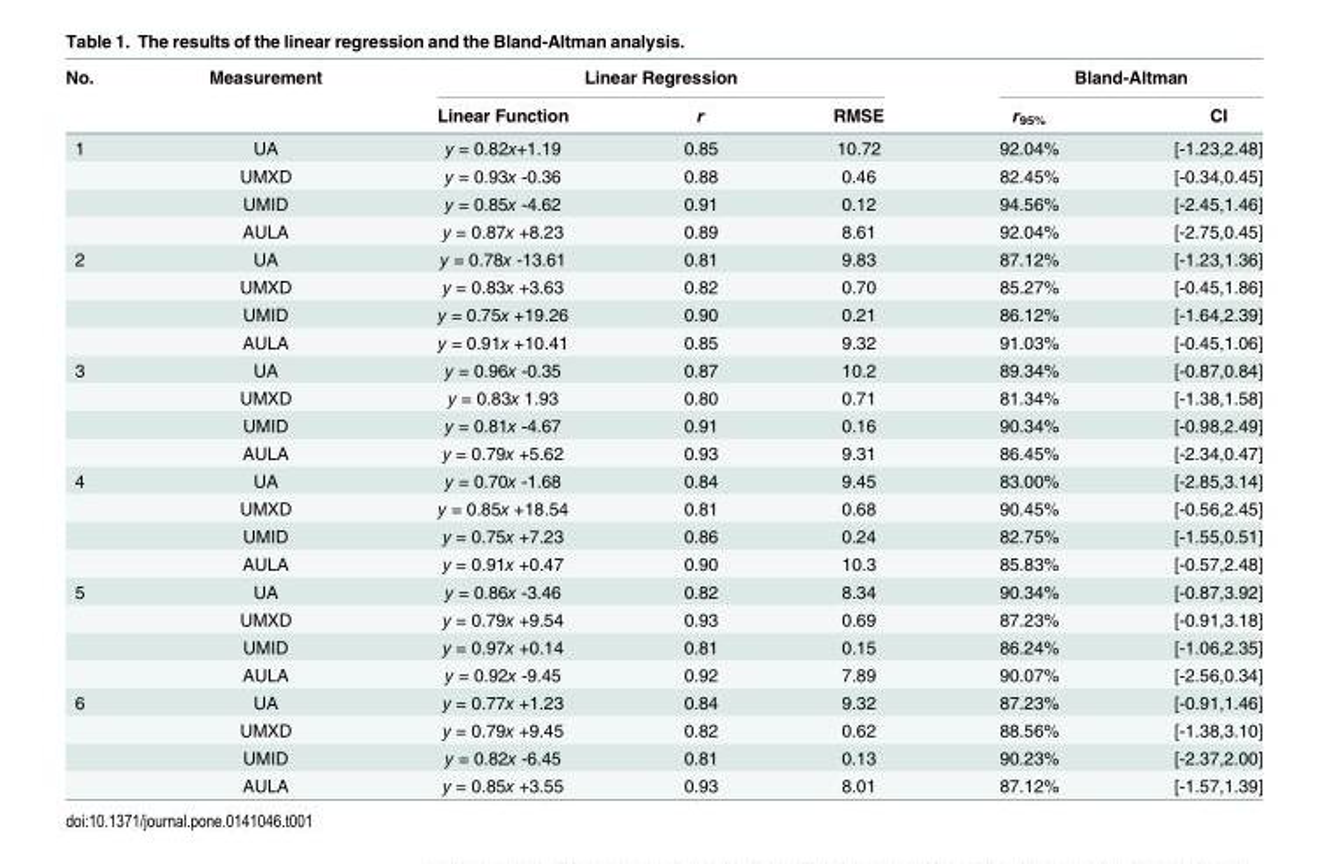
<table><thead><tr><td rowspan="2">No.</td><td rowspan="2">Measurement</td><td colspan="3">Linear Regression</td><td colspan="2">Bland-Altman</td></tr><tr><td>Linear Function</td><td>r</td><td>RMSE</td><td>r<sub>95%</sub></td><td>CI</td></tr></thead><tbody><tr><td rowspan="4">1</td><td>UA</td><td>y = 0.82x+1.19</td><td>0.85</td><td>10.72</td><td>92.04%</td><td>[-1.23,2.48]</td></tr><tr><td>UMXD</td><td>y = 0.93x -0.36</td><td>0.88</td><td>0.46</td><td>82.45%</td><td>[-0.34,0.45]</td></tr><tr><td>UMID</td><td>y = 0.85x -4.62</td><td>0.91</td><td>0.12</td><td>94.56%</td><td>[-2.45,1.46]</td></tr><tr><td>AULA</td><td>y = 0.87x +8.23</td><td>0.89</td><td>8.61</td><td>92.04%</td><td>[-2.75,0.45]</td></tr><tr><td rowspan="4">2</td><td>UA</td><td>y = 0.78x -13.61</td><td>0.81</td><td>9.83</td><td>87.12%</td><td>[-1.23,1.36]</td></tr><tr><td>UMXD</td><td>y = 0.83x +3.63</td><td>0.82</td><td>0.70</td><td>85.27%</td><td>[-0.45,1.86]</td></tr><tr><td>UMID</td><td>y = 0.75x +19.26</td><td>0.90</td><td>0.21</td><td>86.12%</td><td>[-1.64,2.39]</td></tr><tr><td>AULA</td><td>y = 0.91x +10.41</td><td>0.85</td><td>9.32</td><td>91.03%</td><td>[-0.45,1.06]</td></tr><tr><td rowspan="4">3</td><td>UA</td><td>y = 0.96x -0.35</td><td>0.87</td><td>10.2</td><td>89.34%</td><td>[-0.87,0.84]</td></tr><tr><td>UMXD</td><td>y = 0.83x 1.93</td><td>0.80</td><td>0.71</td><td>81.34%</td><td>[-1.38,1.58]</td></tr><tr><td>UMID</td><td>y = 0.81x -4.67</td><td>0.91</td><td>0.16</td><td>90.34%</td><td>[-0.98,2.49]</td></tr><tr><td>AULA</td><td>y = 0.79x +5.62</td><td>0.93</td><td>9.31</td><td>86.45%</td><td>[-2.34,0.47]</td></tr><tr><td rowspan="4">4</td><td>UA</td><td>y = 0.70x -1.68</td><td>0.84</td><td>9.45</td><td>83.00%</td><td>[-2.85,3.14]</td></tr><tr><td>UMXD</td><td>y = 0.85x +18.54</td><td>0.81</td><td>0.68</td><td>90.45%</td><td>[-0.56,2.45]</td></tr><tr><td>UMID</td><td>y = 0.75x +7.23</td><td>0.86</td><td>0.24</td><td>82.75%</td><td>[-1.55,0.51]</td></tr><tr><td>AULA</td><td>y = 0.91x +0.47</td><td>0.90</td><td>10.3</td><td>85.83%</td><td>[-0.57,2.48]</td></tr><tr><td rowspan="4">5</td><td>UA</td><td>y = 0.86x -3.46</td><td>0.82</td><td>8.34</td><td>90.34%</td><td>[-0.87,3.92]</td></tr><tr><td>UMXD</td><td>y = 0.79x +9.54</td><td>0.93</td><td>0.69</td><td>87.23%</td><td>[-0.91,3.18]</td></tr><tr><td>UMID</td><td>y = 0.97x +0.14</td><td>0.81</td><td>0.15</td><td>86.24%</td><td>[-1.06,2.35]</td></tr><tr><td>AULA</td><td>y = 0.92x -9.45</td><td>0.92</td><td>7.89</td><td>90.07%</td><td>[-2.56,0.34]</td></tr><tr><td rowspan="4">6</td><td>UA</td><td>y = 0.77x +1.23</td><td>0.84</td><td>9.32</td><td>87.23%</td><td>[-0.91,1.46]</td></tr><tr><td>UMXD</td><td>y = 0.79x +9.45</td><td>0.82</td><td>0.62</td><td>88.56%</td><td>[-1.38,3.10]</td></tr><tr><td>UMID</td><td>y = 0.82x -6.45</td><td>0.81</td><td>0.13</td><td>90.23%</td><td>[-2.37,2.00]</td></tr><tr><td>AULA</td><td>y = 0.85x +3.55</td><td>0.93</td><td>8.01</td><td>87.12%</td><td>[-1.57,1.39]</td></tr></tbody></table>